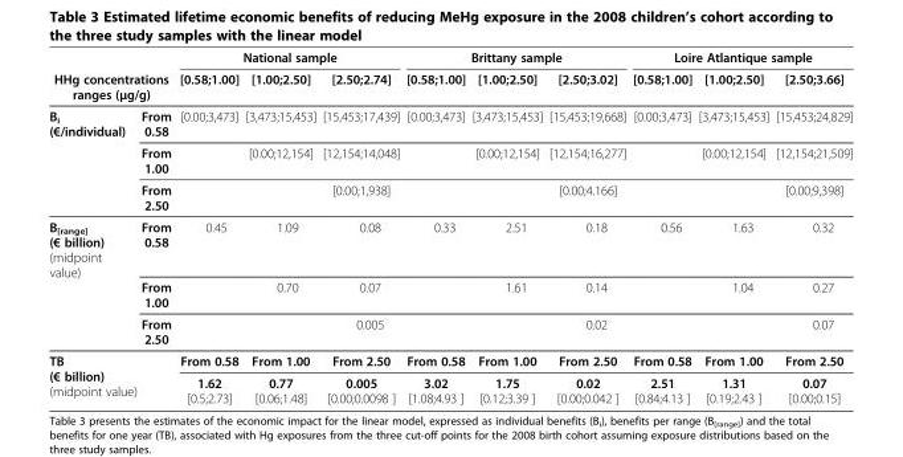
<table><thead><tr><td></td><td></td><td colspan="3">National sample</td><td colspan="3">Brittany sample</td><td colspan="3">Loire Atlantique sample</td></tr><tr><td colspan="2">HHg concentrations ranges (μg/g)</td><td>[0.58;1.00]</td><td>[1.00;2.50]</td><td>[2.50;2.74]</td><td>[0.58;1.00]</td><td>[1.00;2.50]</td><td>[2.50;3.02]</td><td>[0.58;1.00]</td><td>[1.00;2.50]</td><td>[2.50;3.66]</td></tr></thead><tbody><tr><td rowspan="3">B<sub>i</sub> (€/individual)</td><td>From 0.58</td><td>[0.00;3,473]</td><td>[3,473;15,453]</td><td>[15,453;17,439]</td><td>[0.00;3,473]</td><td>[3,473;15,453]</td><td>[15,453;19,668]</td><td>[0.00;3,473]</td><td>[3,473;15,453]</td><td>[15,453;24,829]</td></tr><tr><td>From 1.00</td><td></td><td>[0.00;12,154]</td><td>[12,154;14,048]</td><td></td><td>[0.00;12,154]</td><td>[12,154;16,277]</td><td></td><td>[0.00;12,154]</td><td>[12,154;21,509]</td></tr><tr><td>From 2.50</td><td></td><td></td><td>[0.00;1,938]</td><td></td><td></td><td>[0.00;4.166]</td><td></td><td></td><td>[0.00;9,398]</td></tr><tr><td rowspan="3">B<sub>[range]</sub> (€ billion) (midpoint value)</td><td>From 0.58</td><td>0.45</td><td>1.09</td><td>0.08</td><td>0.33</td><td>2.51</td><td>0.18</td><td>0.56</td><td>1.63</td><td>0.32</td></tr><tr><td>From 1.00</td><td></td><td>0.70</td><td>0.07</td><td></td><td>1.61</td><td>0.14</td><td></td><td>1.04</td><td>0.27</td></tr><tr><td>From 2.50</td><td></td><td></td><td>0.005</td><td></td><td></td><td>0.02</td><td></td><td></td><td>0.07</td></tr><tr><td rowspan="2" colspan="2">TB (€ billion) (midpoint value)</td><td>From 0.58</td><td>From 1.00</td><td>From 2.50</td><td>From 0.58</td><td>From 1.00</td><td>From 2.50</td><td>From 0.58</td><td>From 1.00</td><td>From 2.50</td></tr><tr><td>1.62 [0.5;2.73]</td><td>0.77 [0.06;1.48]</td><td>0.005 [0.00;0.0098 ]</td><td>3.02 [1.08;4.93 ]</td><td>1.75 [0.12;3.39 ]</td><td>0.02 [0.00;0.042 ]</td><td>2.51 [0.84;4.13 ]</td><td>1.31 [0.19;2.43 ]</td><td>0.07 [0.00;0.15]</td></tr></tbody></table>